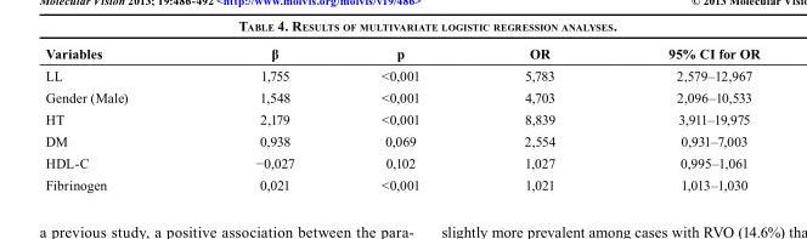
<table><thead><tr><td>Variables</td><td>β</td><td>p</td><td>OR</td><td>95% CI for OR</td></tr></thead><tbody><tr><td>LL</td><td>1,755</td><td>&lt;0,001</td><td>5,783</td><td>2,579–12,967</td></tr><tr><td>Gender (Male)</td><td>1,548</td><td>&lt;0,001</td><td>4,703</td><td>2,096–10,533</td></tr><tr><td>HT</td><td>2,179</td><td>&lt;0,001</td><td>8,839</td><td>3,911–19,975</td></tr><tr><td>DM</td><td>0,938</td><td>0,069</td><td>2,554</td><td>0,931–7,003</td></tr><tr><td>HDL-C</td><td>−0,027</td><td>0,102</td><td>1,027</td><td>0,995–1,061</td></tr><tr><td>Fibrinogen</td><td>0,021</td><td>&lt;0,001</td><td>1,021</td><td>1,013–1,030</td></tr></tbody></table>